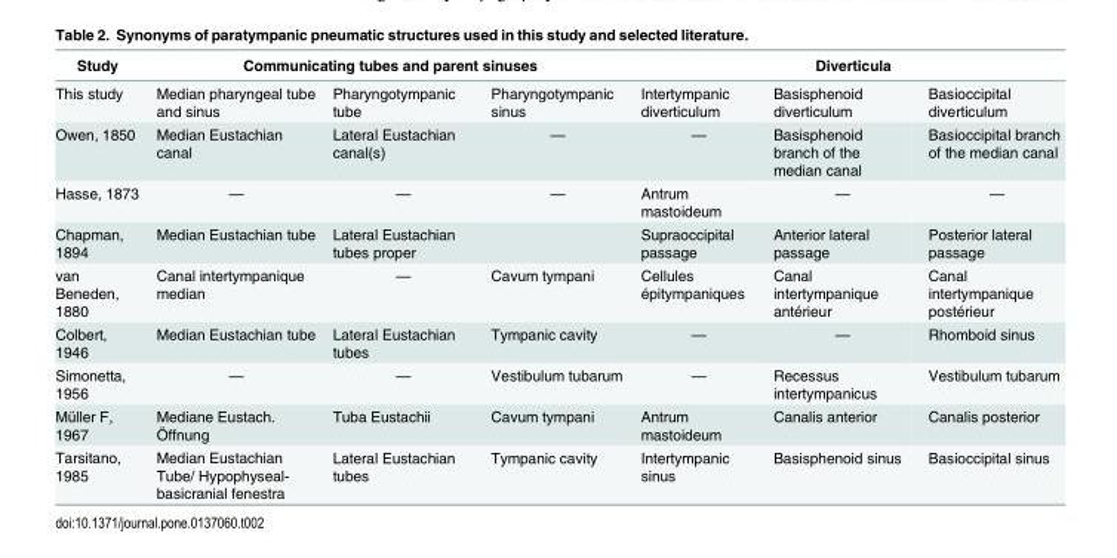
<table><thead><tr><td rowspan="2">Study This study</td><td colspan="3">Communicating tubes and parent sinuses</td><td colspan="3">Diverticula</td></tr><tr><td>Median pharyngeal tube and sinus</td><td>Pharyngotympanic tube</td><td>Pharyngotympanic sinus</td><td>Intertympanic diverticulum</td><td>Basisphenoid diverticulum</td><td>Basioccipital diverticulum</td></tr></thead><tbody><tr><td>Owen, 1850</td><td>Median Eustachian canal</td><td>Lateral Eustachian canal(s)</td><td>—</td><td>—</td><td>Basisphenoid branch of the median canal</td><td>Basioccipital branch of the median canal</td></tr><tr><td>Hasse, 1873</td><td>—</td><td>—</td><td>—</td><td>Antrum mastoideum</td><td>—</td><td>—</td></tr><tr><td>Chapman, 1894</td><td>Median Eustachian tube</td><td>Lateral Eustachian tubes proper</td><td></td><td>Supraoccipital passage</td><td>Anterior lateral passage</td><td>Posterior lateral passage</td></tr><tr><td>van Beneden, 1880</td><td>Canal intertympanique median</td><td>—</td><td>Cavum tympani</td><td>Cellules épitympaniques</td><td>Canal intertympanique antérieur</td><td>Canal intertympanique postérieur</td></tr><tr><td>Colbert, 1946</td><td>Median Eustachian tube</td><td>Lateral Eustachian tubes</td><td>Tympanic cavity</td><td>—</td><td>—</td><td>Rhomboid sinus</td></tr><tr><td>Simonetta, 1956</td><td>—</td><td>—</td><td>Vestibulum tubarum</td><td>—</td><td>Recessus intertympanicus</td><td>Vestibulum tubarum</td></tr><tr><td>Müller F, 1967</td><td>Mediane Eustach. Öffnung</td><td>Tuba Eustachii</td><td>Cavum tympani</td><td>Antrum mastoideum</td><td>Canalis anterior</td><td>Canalis posterior</td></tr><tr><td>Tarsitano, 1985</td><td>Median Eustachian Tube/ Hypophyseal- basicranial fenestra</td><td>Lateral Eustachian tubes</td><td>Tympanic cavity</td><td>Intertympanic sinus</td><td>Basisphenoid sinus</td><td>Basioccipital sinus</td></tr></tbody></table>